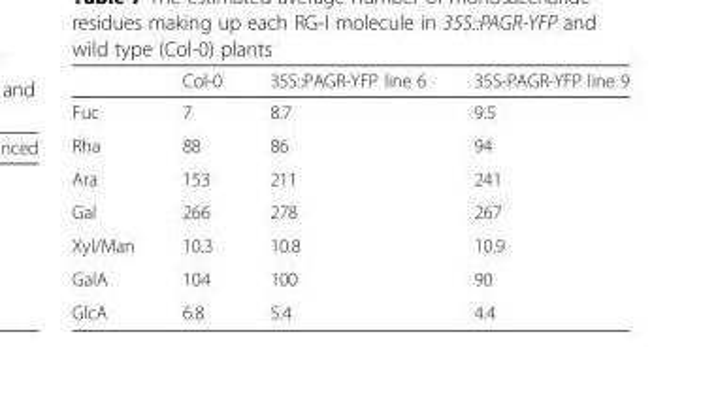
<table><thead><tr><td></td><td>Col-0</td><td>35S::PAGR-YFP line 6</td><td>35S-PAGR-YFP line 9</td></tr></thead><tbody><tr><td>Fuc</td><td>7</td><td>8.7</td><td>9.5</td></tr><tr><td>Rha</td><td>88</td><td>86</td><td>94</td></tr><tr><td>Ara</td><td>153</td><td>211</td><td>241</td></tr><tr><td>Gal</td><td>266</td><td>278</td><td>267</td></tr><tr><td>Xyl/Man</td><td>10.3</td><td>10.8</td><td>10.9</td></tr><tr><td>GalA</td><td>104</td><td>100</td><td>90</td></tr><tr><td>GlcA</td><td>6.8</td><td>5.4</td><td>4.4</td></tr></tbody></table>